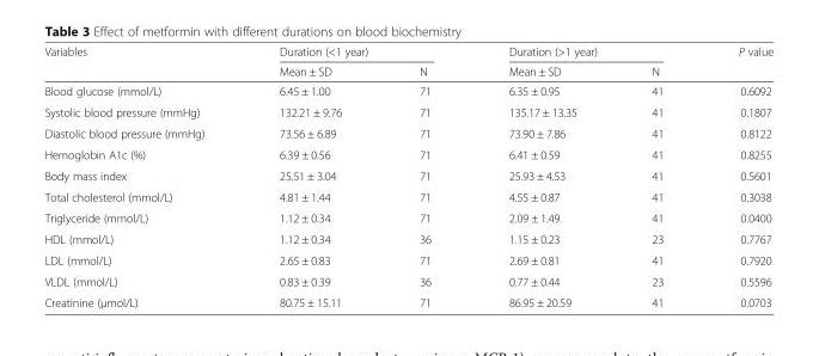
<table><thead><tr><td rowspan="2">Variables</td><td colspan="2">Duration (&lt;1 year)</td><td colspan="2">Duration (&gt;1 year)</td><td rowspan="2">P value</td></tr><tr><td>Mean ± SD</td><td>N</td><td>Mean ± SD</td><td>N</td></tr></thead><tbody><tr><td>Blood glucose (mmol/L)</td><td>6.45 ± 1.00</td><td>71</td><td>6.35 ± 0.95</td><td>41</td><td>0.6092</td></tr><tr><td>Systolic blood pressure (mmHg)</td><td>132.21 ± 9.76</td><td>71</td><td>135.17 ± 13.35</td><td>41</td><td>0.1807</td></tr><tr><td>Diastolic blood pressure (mmHg)</td><td>73.56 ± 6.89</td><td>71</td><td>73.90 ± 7.86</td><td>41</td><td>0.8122</td></tr><tr><td>Hemoglobin A1c (%)</td><td>6.39 ± 0.56</td><td>71</td><td>6.41 ± 0.59</td><td>41</td><td>0.8255</td></tr><tr><td>Body mass index</td><td>25.51 ± 3.04</td><td>71</td><td>25.93 ± 4.53</td><td>41</td><td>0.5601</td></tr><tr><td>Total cholesterol (mmol/L)</td><td>4.81 ± 1.44</td><td>71</td><td>4.55 ± 0.87</td><td>41</td><td>0.3038</td></tr><tr><td>Triglyceride (mmol/L)</td><td>1.12 ± 0.34</td><td>71</td><td>2.09 ± 1.49</td><td>41</td><td>0.0400</td></tr><tr><td>HDL (mmol/L)</td><td>1.12 ± 0.34</td><td>36</td><td>1.15 ± 0.23</td><td>23</td><td>0.7767</td></tr><tr><td>LDL (mmol/L)</td><td>2.65 ± 0.83</td><td>71</td><td>2.69 ± 0.81</td><td>41</td><td>0.7920</td></tr><tr><td>VLDL (mmol/L)</td><td>0.83 ± 0.39</td><td>36</td><td>0.77 ± 0.44</td><td>23</td><td>0.5596</td></tr><tr><td>Creatinine (μmol/L)</td><td>80.75 ± 15.11</td><td>71</td><td>86.95 ± 20.59</td><td>41</td><td>0.0703</td></tr></tbody></table>